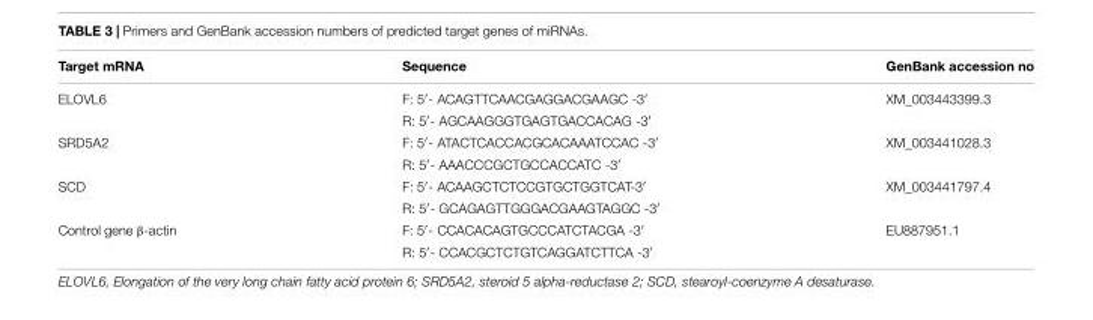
<table><thead><tr><td>Target mRNA</td><td>Sequence</td><td>GenBank accession no</td></tr></thead><tbody><tr><td rowspan="2">ELOVL6</td><td>F: 5′- ACAGTTCAACGAGGACGAAGC -3′</td><td>XM_003443399.3</td></tr><tr><td>R: 5′- AGCAAGGGTGAGTGACCACAG -3′</td><td></td></tr><tr><td rowspan="2">SRD5A2</td><td>F: 5′- ATACTCACCACGCACAAATCCAC -3′</td><td>XM_003441028.3</td></tr><tr><td>R: 5′- AAACCCGCTGCCACCATC -3′</td><td></td></tr><tr><td rowspan="2">SCD</td><td>F: 5′- ACAAGCTCTCCGTGCTGGTCAT-3′</td><td>XM_003441797.4</td></tr><tr><td>R: 5′- GCAGAGTTGGGACGAAGTAGGC -3′</td><td></td></tr><tr><td rowspan="2">Control gene β-actin</td><td>F: 5′- CCACACAGTGCCCATCTACGA -3′</td><td>EU887951.1</td></tr><tr><td>R: 5′- CCACGCTCTGTCAGGATCTTCA -3′</td><td></td></tr></tbody></table>